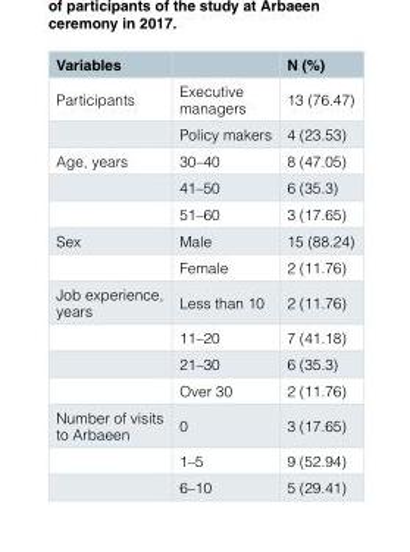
<table><thead><tr><td>Variables</td><td></td><td>N (%)</td></tr></thead><tbody><tr><td rowspan="2">Participants</td><td>Executive managers</td><td>13 (76.47)</td></tr><tr><td>Policy makers</td><td>4 (23.53)</td></tr><tr><td rowspan="3">Age, years</td><td>30–40</td><td>8 (47.05)</td></tr><tr><td>41–50</td><td>6 (35.3)</td></tr><tr><td>51–60</td><td>3 (17.65)</td></tr><tr><td rowspan="2">Sex</td><td>Male</td><td>15 (88.24)</td></tr><tr><td>Female</td><td>2 (11.76)</td></tr><tr><td rowspan="4">Job experience, years</td><td>Less than 10</td><td>2 (11.76)</td></tr><tr><td>11–20</td><td>7 (41.18)</td></tr><tr><td>21–30</td><td>6 (35.3)</td></tr><tr><td>Over 30</td><td>2 (11.76)</td></tr><tr><td rowspan="3">Number of visits to Arbaeen</td><td>0</td><td>3 (17.65)</td></tr><tr><td>1–5</td><td>9 (52.94)</td></tr><tr><td>6–10</td><td>5 (29.41)</td></tr></tbody></table>